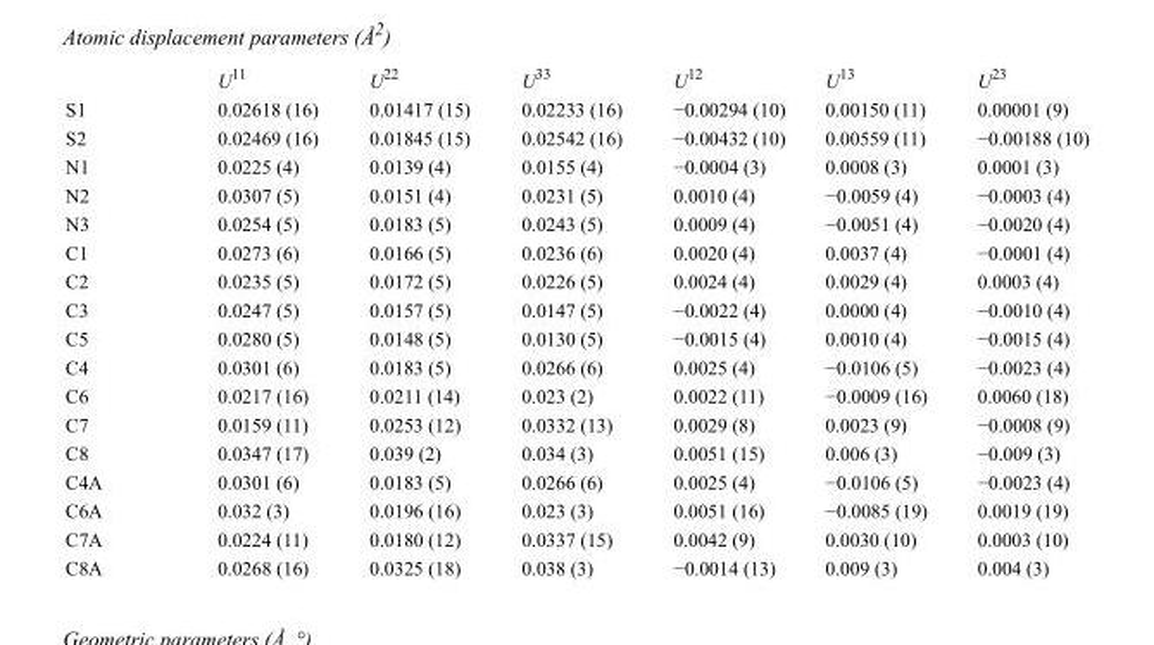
<table><thead><tr><td></td><td>U<sup>11</sup></td><td>U<sup>22</sup></td><td>U<sup>33</sup></td><td>U<sup>12</sup></td><td>U<sup>13</sup></td><td>U<sup>23</sup></td></tr></thead><tbody><tr><td>S1</td><td>0.02618 (16)</td><td>0.01417 (15)</td><td>0.02233 (16)</td><td>−0.00294 (10)</td><td>0.00150 (11)</td><td>0.00001 (9)</td></tr><tr><td>S2</td><td>0.02469 (16)</td><td>0.01845 (15)</td><td>0.02542 (16)</td><td>−0.00432 (10)</td><td>0.00559 (11)</td><td>−0.00188 (10)</td></tr><tr><td>N1</td><td>0.0225 (4)</td><td>0.0139 (4)</td><td>0.0155 (4)</td><td>−0.0004 (3)</td><td>0.0008 (3)</td><td>0.0001 (3)</td></tr><tr><td>N2</td><td>0.0307 (5)</td><td>0.0151 (4)</td><td>0.0231 (5)</td><td>0.0010 (4)</td><td>−0.0059 (4)</td><td>−0.0003 (4)</td></tr><tr><td>N3</td><td>0.0254 (5)</td><td>0.0183 (5)</td><td>0.0243 (5)</td><td>0.0009 (4)</td><td>−0.0051 (4)</td><td>−0.0020 (4)</td></tr><tr><td>C1</td><td>0.0273 (6)</td><td>0.0166 (5)</td><td>0.0236 (6)</td><td>0.0020 (4)</td><td>0.0037 (4)</td><td>−0.0001 (4)</td></tr><tr><td>C2</td><td>0.0235 (5)</td><td>0.0172 (5)</td><td>0.0226 (5)</td><td>0.0024 (4)</td><td>0.0029 (4)</td><td>0.0003 (4)</td></tr><tr><td>C3</td><td>0.0247 (5)</td><td>0.0157 (5)</td><td>0.0147 (5)</td><td>−0.0022 (4)</td><td>0.0000 (4)</td><td>−0.0010 (4)</td></tr><tr><td>C5</td><td>0.0280 (5)</td><td>0.0148 (5)</td><td>0.0130 (5)</td><td>−0.0015 (4)</td><td>0.0010 (4)</td><td>−0.0015 (4)</td></tr><tr><td>C4</td><td>0.0301 (6)</td><td>0.0183 (5)</td><td>0.0266 (6)</td><td>0.0025 (4)</td><td>−0.0106 (5)</td><td>−0.0023 (4)</td></tr><tr><td>C6</td><td>0.0217 (16)</td><td>0.0211 (14)</td><td>0.023 (2)</td><td>0.0022 (11)</td><td>−0.0009 (16)</td><td>0.0060 (18)</td></tr><tr><td>C7</td><td>0.0159 (11)</td><td>0.0253 (12)</td><td>0.0332 (13)</td><td>0.0029 (8)</td><td>0.0023 (9)</td><td>−0.0008 (9)</td></tr><tr><td>C8</td><td>0.0347 (17)</td><td>0.039 (2)</td><td>0.034 (3)</td><td>0.0051 (15)</td><td>0.006 (3)</td><td>−0.009 (3)</td></tr><tr><td>C4A</td><td>0.0301 (6)</td><td>0.0183 (5)</td><td>0.0266 (6)</td><td>0.0025 (4)</td><td>−0.0106 (5)</td><td>−0.0023 (4)</td></tr><tr><td>C6A</td><td>0.032 (3)</td><td>0.0196 (16)</td><td>0.023 (3)</td><td>0.0051 (16)</td><td>−0.0085 (19)</td><td>0.0019 (19)</td></tr><tr><td>C7A</td><td>0.0224 (11)</td><td>0.0180 (12)</td><td>0.0337 (15)</td><td>0.0042 (9)</td><td>0.0030 (10)</td><td>0.0003 (10)</td></tr><tr><td>C8A</td><td>0.0268 (16)</td><td>0.0325 (18)</td><td>0.038 (3)</td><td>−0.0014 (13)</td><td>0.009 (3)</td><td>0.004 (3)</td></tr></tbody></table>